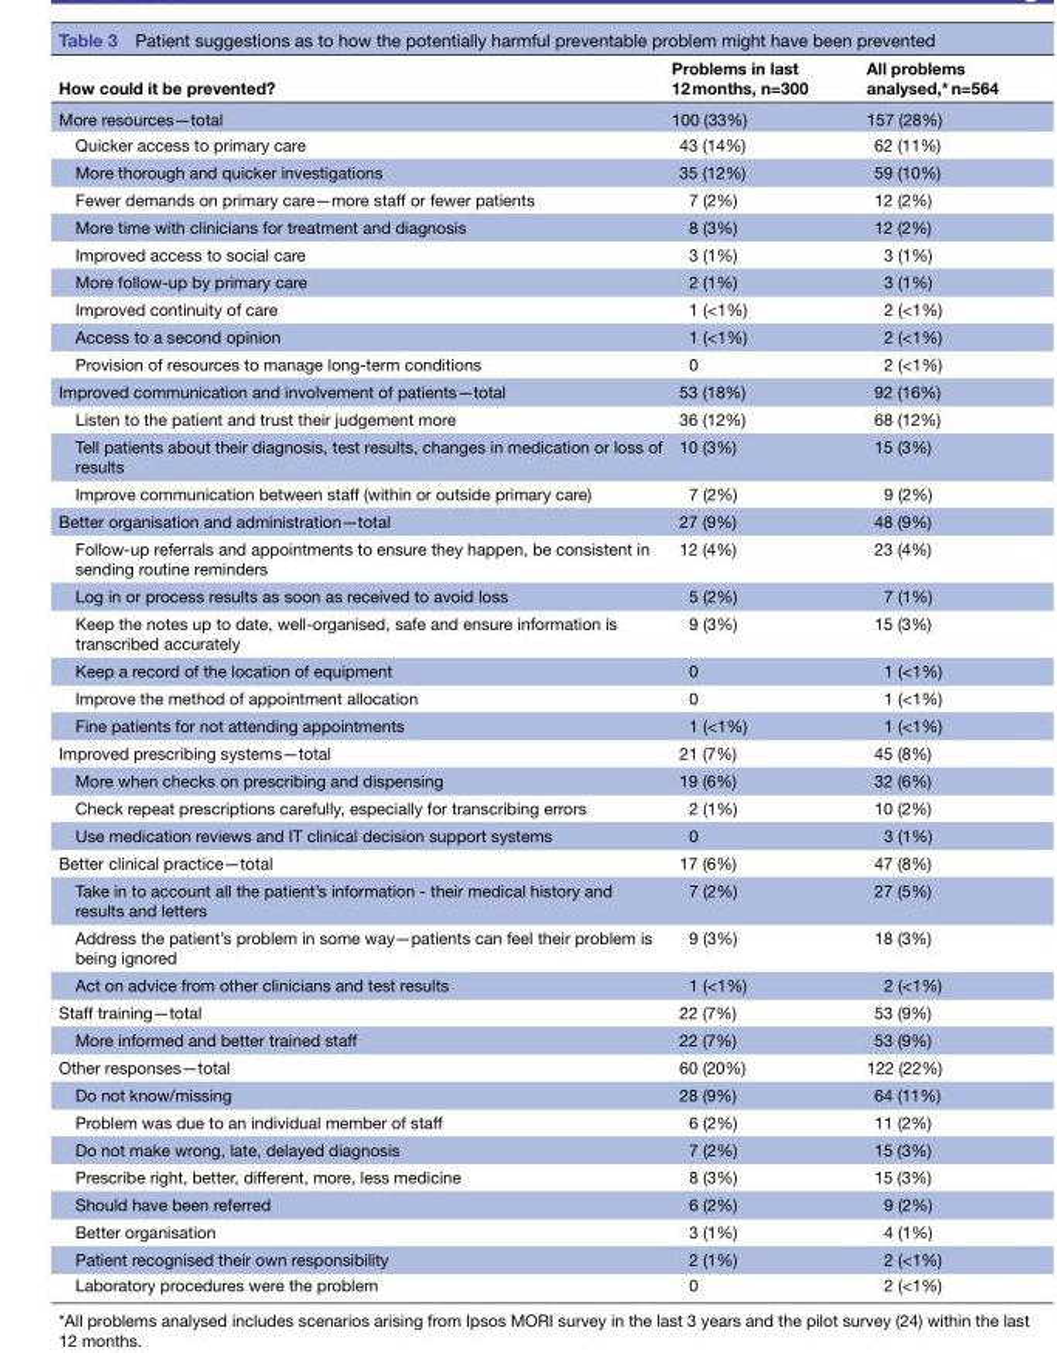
<table><thead><tr><td>How could it be prevented?</td><td>Problems in last 12 months, n=300</td><td>All problems analysed,* n=564</td></tr></thead><tbody><tr><td>More resources—total</td><td>100 (33%)</td><td>157 (28%)</td></tr><tr><td>Quicker access to primary care</td><td>43 (14%)</td><td>62 (11%)</td></tr><tr><td>More thorough and quicker investigations</td><td>35 (12%)</td><td>59 (10%)</td></tr><tr><td>Fewer demands on primary care—more staff or fewer patients</td><td>7 (2%)</td><td>12 (2%)</td></tr><tr><td>More time with clinicians for treatment and diagnosis</td><td>8 (3%)</td><td>12 (2%)</td></tr><tr><td>Improved access to social care</td><td>3 (1%)</td><td>3 (1%)</td></tr><tr><td>More follow-up by primary care</td><td>2 (1%)</td><td>3 (1%)</td></tr><tr><td>Improved continuity of care</td><td>1 (&lt;1%)</td><td>2 (&lt;1%)</td></tr><tr><td>Access to a second opinion</td><td>1 (&lt;1%)</td><td>2 (&lt;1%)</td></tr><tr><td>Provision of resources to manage long-term conditions</td><td>0</td><td>2 (&lt;1%)</td></tr><tr><td>Improved communication and involvement of patients—total</td><td>53 (18%)</td><td>92 (16%)</td></tr><tr><td>Listen to the patient and trust their judgement more</td><td>36 (12%)</td><td>68 (12%)</td></tr><tr><td>Tell patients about their diagnosis, test results, changes in medication or loss of results</td><td>10 (3%)</td><td>15 (3%)</td></tr><tr><td>Improve communication between staff (within or outside primary care)</td><td>7 (2%)</td><td>9 (2%)</td></tr><tr><td>Better organisation and administration—total</td><td>27 (9%)</td><td>48 (9%)</td></tr><tr><td>Follow-up referrals and appointments to ensure they happen, be consistent in sending routine reminders</td><td>12 (4%)</td><td>23 (4%)</td></tr><tr><td>Log in or process results as soon as received to avoid loss</td><td>5 (2%)</td><td>7 (1%)</td></tr><tr><td>Keep the notes up to date, well-organised, safe and ensure information is transcribed accurately</td><td>9 (3%)</td><td>15 (3%)</td></tr><tr><td>Keep a record of the location of equipment</td><td>0</td><td>1 (&lt;1%)</td></tr><tr><td>Improve the method of appointment allocation</td><td>0</td><td>1 (&lt;1%)</td></tr><tr><td>Fine patients for not attending appointments</td><td>1 (&lt;1%)</td><td>1 (&lt;1%)</td></tr><tr><td>Improved prescribing systems—total</td><td>21 (7%)</td><td>45 (8%)</td></tr><tr><td>More when checks on prescribing and dispensing</td><td>19 (6%)</td><td>32 (6%)</td></tr><tr><td>Check repeat prescriptions carefully, especially for transcribing errors</td><td>2 (1%)</td><td>10 (2%)</td></tr><tr><td>Use medication reviews and IT clinical decision support systems</td><td>0</td><td>3 (1%)</td></tr><tr><td>Better clinical practice—total</td><td>17 (6%)</td><td>47 (8%)</td></tr><tr><td>Take in to account all the patient’s information - their medical history and results and letters</td><td>7 (2%)</td><td>27 (5%)</td></tr><tr><td>Address the patient’s problem in some way—patients can feel their problem is being ignored</td><td>9 (3%)</td><td>18 (3%)</td></tr><tr><td>Act on advice from other clinicians and test results</td><td>1 (&lt;1%)</td><td>2 (&lt;1%)</td></tr><tr><td>Staff training—total</td><td>22 (7%)</td><td>53 (9%)</td></tr><tr><td>More informed and better trained staff</td><td>22 (7%)</td><td>53 (9%)</td></tr><tr><td>Other responses—total</td><td>60 (20%)</td><td>122 (22%)</td></tr><tr><td>Do not know/missing</td><td>28 (9%)</td><td>64 (11%)</td></tr><tr><td>Problem was due to an individual member of staff</td><td>6 (2%)</td><td>11 (2%)</td></tr><tr><td>Do not make wrong, late, delayed diagnosis</td><td>7 (2%)</td><td>15 (3%)</td></tr><tr><td>Prescribe right, better, different, more, less medicine</td><td>8 (3%)</td><td>15 (3%)</td></tr><tr><td>Should have been referred</td><td>6 (2%)</td><td>9 (2%)</td></tr><tr><td>Better organisation</td><td>3 (1%)</td><td>4 (1%)</td></tr><tr><td>Patient recognised their own responsibility</td><td>2 (1%)</td><td>2 (&lt;1%)</td></tr><tr><td>Laboratory procedures were the problem</td><td>0</td><td>2 (&lt;1%)</td></tr></tbody></table>